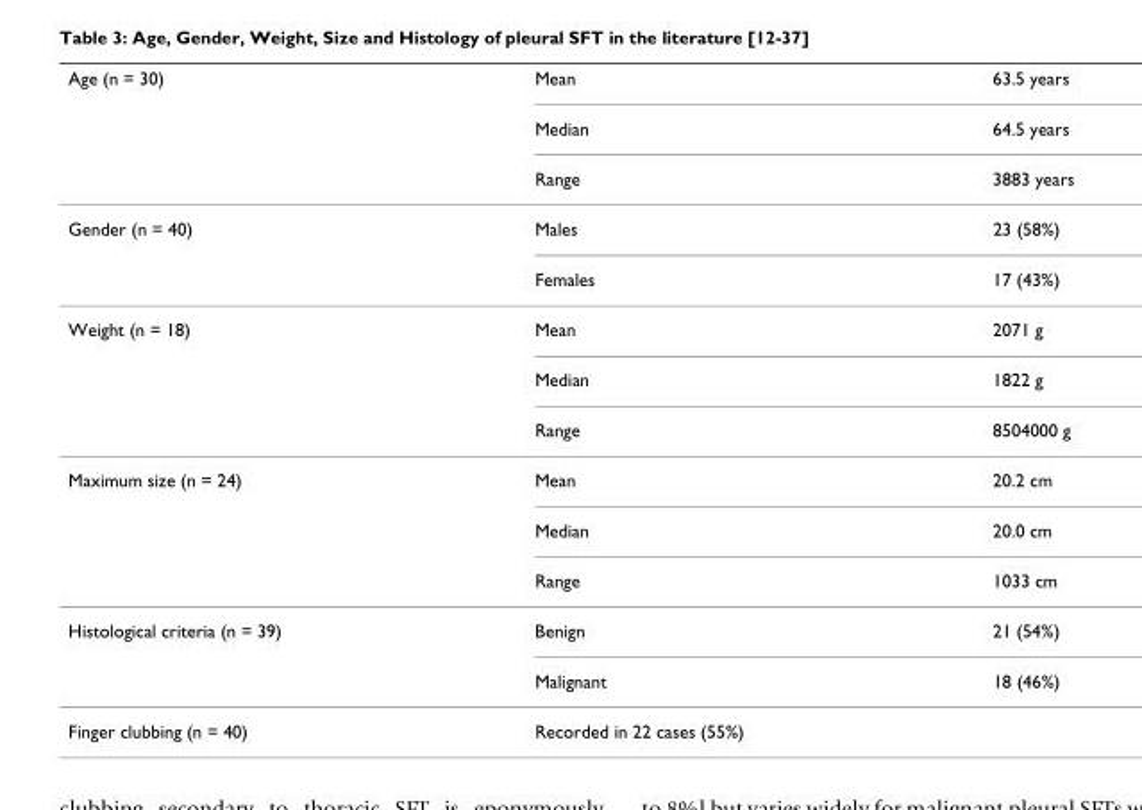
<table><thead><tr><td rowspan="3">Age (n = 30)</td><td rowspan="3">Mean Median Range</td><td rowspan="3">63.5 years 64.5 years 3883 years</td></tr><tr></tr><tr></tr></thead><tbody><tr><td rowspan="2">Gender (n = 40)</td><td>Males</td><td>23 (58%)</td></tr><tr><td>Females</td><td>17 (43%)</td></tr><tr><td rowspan="3">Weight (n = 18)</td><td>Mean</td><td>2071 g</td></tr><tr><td>Median</td><td>1822 g</td></tr><tr><td>Range</td><td>8504000 g</td></tr><tr><td rowspan="3">Maximum size (n = 24)</td><td>Mean</td><td>20.2 cm</td></tr><tr><td>Median</td><td>20.0 cm</td></tr><tr><td>Range</td><td>1033 cm</td></tr><tr><td rowspan="2">Histological criteria (n = 39)</td><td>Benign</td><td>21 (54%)</td></tr><tr><td>Malignant</td><td>18 (46%)</td></tr><tr><td>Finger clubbing (n = 40)</td><td>Recorded in 22 cases (55%)</td><td></td></tr></tbody></table>